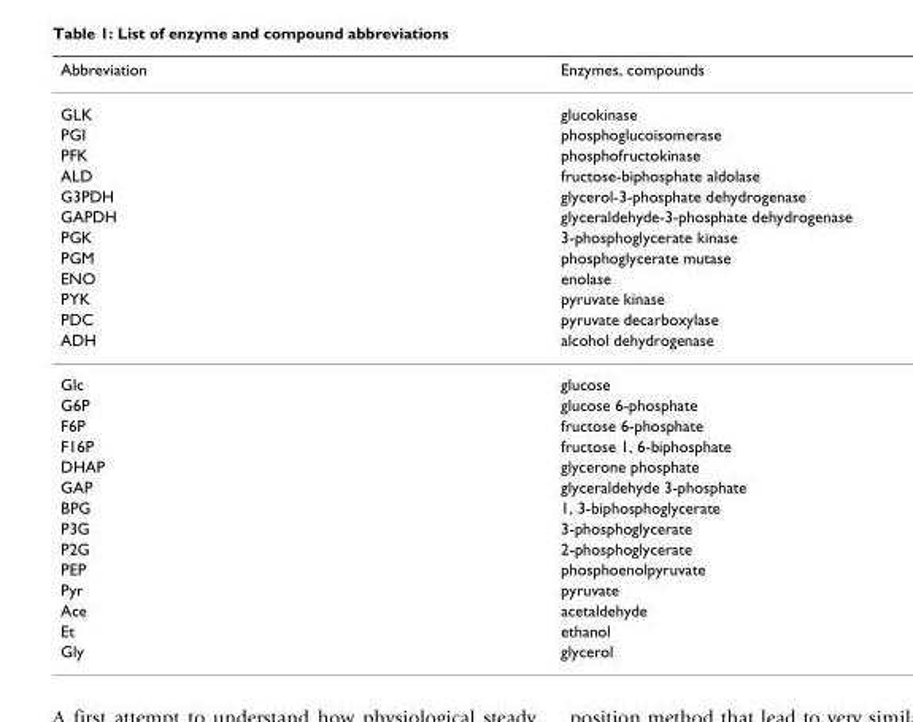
<table><thead><tr><td>Abbreviation</td><td>Enzymes, compounds</td></tr></thead><tbody><tr><td>GLK</td><td>glucokinase</td></tr><tr><td>PGI</td><td>phosphoglucoisomerase</td></tr><tr><td>PFK</td><td>phosphofructokinase</td></tr><tr><td>ALD</td><td>fructose-biphosphate aldolase</td></tr><tr><td>G3PDH</td><td>glycerol-3-phosphate dehydrogenase</td></tr><tr><td>GAPDH</td><td>glyceraldehyde-3-phosphate dehydrogenase</td></tr><tr><td>PGK</td><td>3-phosphoglycerate kinase</td></tr><tr><td>PGM</td><td>phosphoglycerate mutase</td></tr><tr><td>ENO</td><td>enolase</td></tr><tr><td>PYK</td><td>pyruvate kinase</td></tr><tr><td>PDC</td><td>pyruvate decarboxylase</td></tr><tr><td>ADH</td><td>alcohol dehydrogenase</td></tr><tr><td>Glc</td><td>glucose</td></tr><tr><td>G6P</td><td>glucose 6-phosphate</td></tr><tr><td>F6P</td><td>fructose 6-phosphate</td></tr><tr><td>F16P</td><td>fructose 1, 6-biphosphate</td></tr><tr><td>DHAP</td><td>glycerone phosphate</td></tr><tr><td>GAP</td><td>glyceraldehyde 3-phosphate</td></tr><tr><td>BPG</td><td>1, 3-biphosphoglycerate</td></tr><tr><td>P3G</td><td>3-phosphoglycerate</td></tr><tr><td>P2G</td><td>2-phosphoglycerate</td></tr><tr><td>PEP</td><td>phosphoenolpyruvate</td></tr><tr><td>Pyr</td><td>pyruvate</td></tr><tr><td>Ace</td><td>acetaldehyde</td></tr><tr><td>Et</td><td>ethanol</td></tr><tr><td>Gly</td><td>glycerol</td></tr></tbody></table>